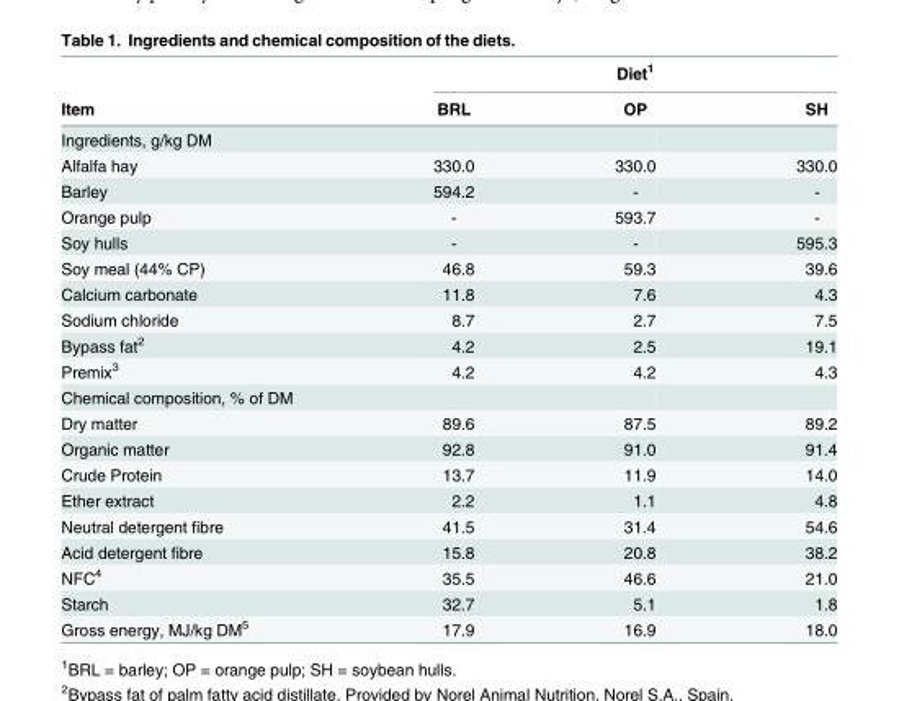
<table><thead><tr><td rowspan="2">Item</td><td colspan="3">Diet<sup>1</sup></td></tr><tr><td>BRL</td><td>OP</td><td>SH</td></tr></thead><tbody><tr><td colspan="4">Ingredients, g/kg DM</td></tr><tr><td>Alfalfa hay</td><td>330.0</td><td>330.0</td><td>330.0</td></tr><tr><td>Barley</td><td>594.2</td><td>-</td><td>-</td></tr><tr><td>Orange pulp</td><td>-</td><td>593.7</td><td>-</td></tr><tr><td>Soy hulls</td><td>-</td><td>-</td><td>595.3</td></tr><tr><td>Soy meal (44% CP)</td><td>46.8</td><td>59.3</td><td>39.6</td></tr><tr><td>Calcium carbonate</td><td>11.8</td><td>7.6</td><td>4.3</td></tr><tr><td>Sodium chloride</td><td>8.7</td><td>2.7</td><td>7.5</td></tr><tr><td>Bypass fat<sup>2</sup></td><td>4.2</td><td>2.5</td><td>19.1</td></tr><tr><td>Premix<sup>3</sup></td><td>4.2</td><td>4.2</td><td>4.3</td></tr><tr><td colspan="4">Chemical composition, % of DM</td></tr><tr><td>Dry matter</td><td>89.6</td><td>87.5</td><td>89.2</td></tr><tr><td>Organic matter</td><td>92.8</td><td>91.0</td><td>91.4</td></tr><tr><td>Crude Protein</td><td>13.7</td><td>11.9</td><td>14.0</td></tr><tr><td>Ether extract</td><td>2.2</td><td>1.1</td><td>4.8</td></tr><tr><td>Neutral detergent fibre</td><td>41.5</td><td>31.4</td><td>54.6</td></tr><tr><td>Acid detergent fibre</td><td>15.8</td><td>20.8</td><td>38.2</td></tr><tr><td>NFC<sup>4</sup></td><td>35.5</td><td>46.6</td><td>21.0</td></tr><tr><td>Starch</td><td>32.7</td><td>5.1</td><td>1.8</td></tr><tr><td>Gross energy, MJ/kg DM<sup>5</sup></td><td>17.9</td><td>16.9</td><td>18.0</td></tr></tbody></table>